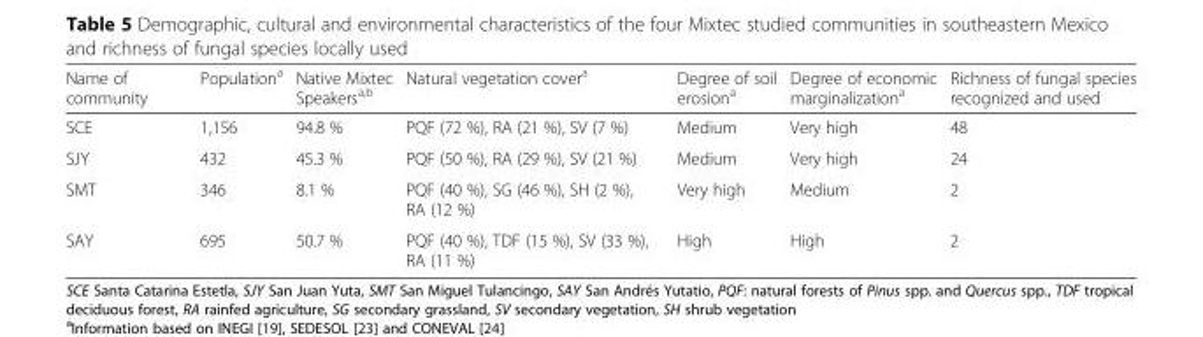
<table><thead><tr><td>Name of community</td><td>Population<sup>a</sup></td><td>Native Mixtec Speakers<sup>a,b</sup></td><td>Natural vegetation cover<sup>a</sup></td><td>Degree of soil erosion<sup>a</sup></td><td>Degree of economic marginalization<sup>a</sup></td><td>Richness of fungal species recognized and used</td></tr></thead><tbody><tr><td>SCE</td><td>1,156</td><td>94.8 %</td><td>PQF (72 %), RA (21 %), SV (7 %)</td><td>Medium</td><td>Very high</td><td>48</td></tr><tr><td>SJY</td><td>432</td><td>45.3 %</td><td>PQF (50 %), RA (29 %), SV (21 %)</td><td>Medium</td><td>Very high</td><td>24</td></tr><tr><td>SMT</td><td>346</td><td>8.1 %</td><td>PQF (40 %), SG (46 %), SH (2 %), RA (12 %)</td><td>Very high</td><td>Medium</td><td>2</td></tr><tr><td>SAY</td><td>695</td><td>50.7 %</td><td>PQF (40 %), TDF (15 %), SV (33 %), RA (11 %)</td><td>High</td><td>High</td><td>2</td></tr></tbody></table>